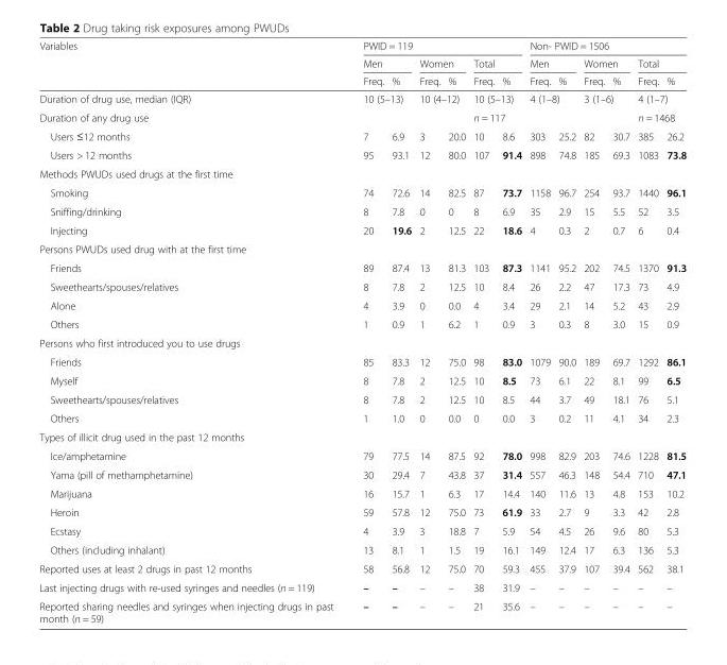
<table><thead><tr><td rowspan="3">Variables</td><td colspan="6">PWID = 119</td><td colspan="6">Non- PWID = 1506</td></tr><tr><td colspan="2">Men</td><td colspan="2">Women</td><td colspan="2">Total</td><td colspan="2">Men</td><td colspan="2">Women</td><td colspan="2">Total</td></tr><tr><td>Freq.</td><td>%</td><td>Freq.</td><td>%</td><td>Freq.</td><td>%</td><td>Freq.</td><td>%</td><td>Freq.</td><td>%</td><td>Freq.</td><td>%</td></tr></thead><tbody><tr><td>Duration of drug use, median (IQR)</td><td colspan="2">10 (5–13)</td><td colspan="2">10 (4–12)</td><td colspan="2">10 (5–13)</td><td colspan="2">4 (1–8)</td><td colspan="2">3 (1–6)</td><td colspan="2">4 (1–7)</td></tr><tr><td>Duration of any drug use</td><td></td><td></td><td></td><td></td><td colspan="2">n = 117</td><td></td><td></td><td></td><td></td><td colspan="2">n = 1468</td></tr><tr><td>Users ≤12 months</td><td>7</td><td>6.9</td><td>3</td><td>20.0</td><td>10</td><td>8.6</td><td>303</td><td>25.2</td><td>82</td><td>30.7</td><td>385</td><td>26.2</td></tr><tr><td>Users &gt; 12 months</td><td>95</td><td>93.1</td><td>12</td><td>80.0</td><td>107</td><td>91.4</td><td>898</td><td>74.8</td><td>185</td><td>69.3</td><td>1083</td><td>73.8</td></tr><tr><td colspan="13">Methods PWUDs used drugs at the first time</td></tr><tr><td>Smoking</td><td>74</td><td>72.6</td><td>14</td><td>82.5</td><td>87</td><td>73.7</td><td>1158</td><td>96.7</td><td>254</td><td>93.7</td><td>1440</td><td>96.1</td></tr><tr><td>Sniffing/drinking</td><td>8</td><td>7.8</td><td>0</td><td>0</td><td>8</td><td>6.9</td><td>35</td><td>2.9</td><td>15</td><td>5.5</td><td>52</td><td>3.5</td></tr><tr><td>Injecting</td><td>20</td><td>19.6</td><td>2</td><td>12.5</td><td>22</td><td>18.6</td><td>4</td><td>0.3</td><td>2</td><td>0.7</td><td>6</td><td>0.4</td></tr><tr><td colspan="13">Persons PWUDs used drug with at the first time</td></tr><tr><td>Friends</td><td>89</td><td>87.4</td><td>13</td><td>81.3</td><td>103</td><td>87.3</td><td>1141</td><td>95.2</td><td>202</td><td>74.5</td><td>1370</td><td>91.3</td></tr><tr><td>Sweethearts/spouses/relatives</td><td>8</td><td>7.8</td><td>2</td><td>12.5</td><td>10</td><td>8.4</td><td>26</td><td>2.2</td><td>47</td><td>17.3</td><td>73</td><td>4.9</td></tr><tr><td>Alone</td><td>4</td><td>3.9</td><td>0</td><td>0.0</td><td>4</td><td>3.4</td><td>29</td><td>2.1</td><td>14</td><td>5.2</td><td>43</td><td>2.9</td></tr><tr><td>Others</td><td>1</td><td>0.9</td><td>1</td><td>6.2</td><td>1</td><td>0.9</td><td>3</td><td>0.3</td><td>8</td><td>3.0</td><td>15</td><td>0.9</td></tr><tr><td colspan="13">Persons who first introduced you to use drugs</td></tr><tr><td>Friends</td><td>85</td><td>83.3</td><td>12</td><td>75.0</td><td>98</td><td>83.0</td><td>1079</td><td>90.0</td><td>189</td><td>69.7</td><td>1292</td><td>86.1</td></tr><tr><td>Myself</td><td>8</td><td>7.8</td><td>2</td><td>12.5</td><td>10</td><td>8.5</td><td>73</td><td>6.1</td><td>22</td><td>8.1</td><td>99</td><td>6.5</td></tr><tr><td>Sweethearts/spouses/relatives</td><td>8</td><td>7.8</td><td>2</td><td>12.5</td><td>10</td><td>8.5</td><td>44</td><td>3.7</td><td>49</td><td>18.1</td><td>76</td><td>5.1</td></tr><tr><td>Others</td><td>1</td><td>1.0</td><td>0</td><td>0.0</td><td>0</td><td>0.0</td><td>3</td><td>0.2</td><td>11</td><td>4.1</td><td>34</td><td>2.3</td></tr><tr><td colspan="13">Types of illicit drug used in the past 12 months</td></tr><tr><td>Ice/amphetamine</td><td>79</td><td>77.5</td><td>14</td><td>87.5</td><td>92</td><td>78.0</td><td>998</td><td>82.9</td><td>203</td><td>74.6</td><td>1228</td><td>81.5</td></tr><tr><td>Yama (pill of methamphetamine)</td><td>30</td><td>29.4</td><td>7</td><td>43.8</td><td>37</td><td>31.4</td><td>557</td><td>46.3</td><td>148</td><td>54.4</td><td>710</td><td>47.1</td></tr><tr><td>Marijuana</td><td>16</td><td>15.7</td><td>1</td><td>6.3</td><td>17</td><td>14.4</td><td>140</td><td>11.6</td><td>13</td><td>4.8</td><td>153</td><td>10.2</td></tr><tr><td>Heroin</td><td>59</td><td>57.8</td><td>12</td><td>75.0</td><td>73</td><td>61.9</td><td>33</td><td>2.7</td><td>9</td><td>3.3</td><td>42</td><td>2.8</td></tr><tr><td>Ecstasy</td><td>4</td><td>3.9</td><td>3</td><td>18.8</td><td>7</td><td>5.9</td><td>54</td><td>4.5</td><td>26</td><td>9.6</td><td>80</td><td>5.3</td></tr><tr><td>Others (including inhalant)</td><td>13</td><td>8.1</td><td>1</td><td>1.5</td><td>19</td><td>16.1</td><td>149</td><td>12.4</td><td>17</td><td>6.3</td><td>136</td><td>5.3</td></tr><tr><td>Reported uses at least 2 drugs in past 12 months</td><td>58</td><td>56.8</td><td>12</td><td>75.0</td><td>70</td><td>59.3</td><td>455</td><td>37.9</td><td>107</td><td>39.4</td><td>562</td><td>38.1</td></tr><tr><td>Last injecting drugs with re-used syringes and needles (n = 119)</td><td>–</td><td>–</td><td>–</td><td>–</td><td>38</td><td>31.9</td><td>–</td><td>–</td><td>–</td><td>–</td><td>–</td><td>–</td></tr><tr><td>Reported sharing needles and syringes when injecting drugs in past month (n = 59)</td><td>–</td><td>–</td><td>–</td><td>–</td><td>21</td><td>35.6</td><td>–</td><td>–</td><td>–</td><td>–</td><td>–</td><td>–</td></tr></tbody></table>